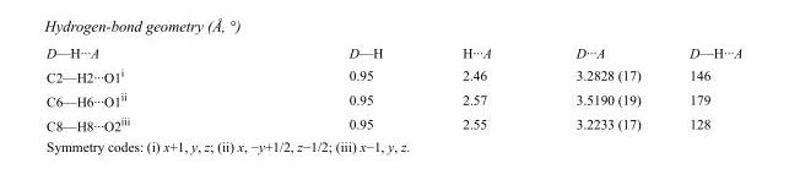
<table><tbody><tr><td>D—H···A</td><td>D—H</td><td>H···A</td><td>D···A</td><td>D—H···A</td></tr><tr><td>C2—H2···O1<sup>i</sup></td><td>0.95</td><td>2.46</td><td>3.2828 (17)</td><td>146</td></tr><tr><td>C6—H6···O1<sup>ii</sup></td><td>0.95</td><td>2.57</td><td>3.5190 (19)</td><td>179</td></tr><tr><td>C8—H8···O2<sup>iii</sup></td><td>0.95</td><td>2.55</td><td>3.2233 (17)</td><td>128</td></tr></tbody></table>